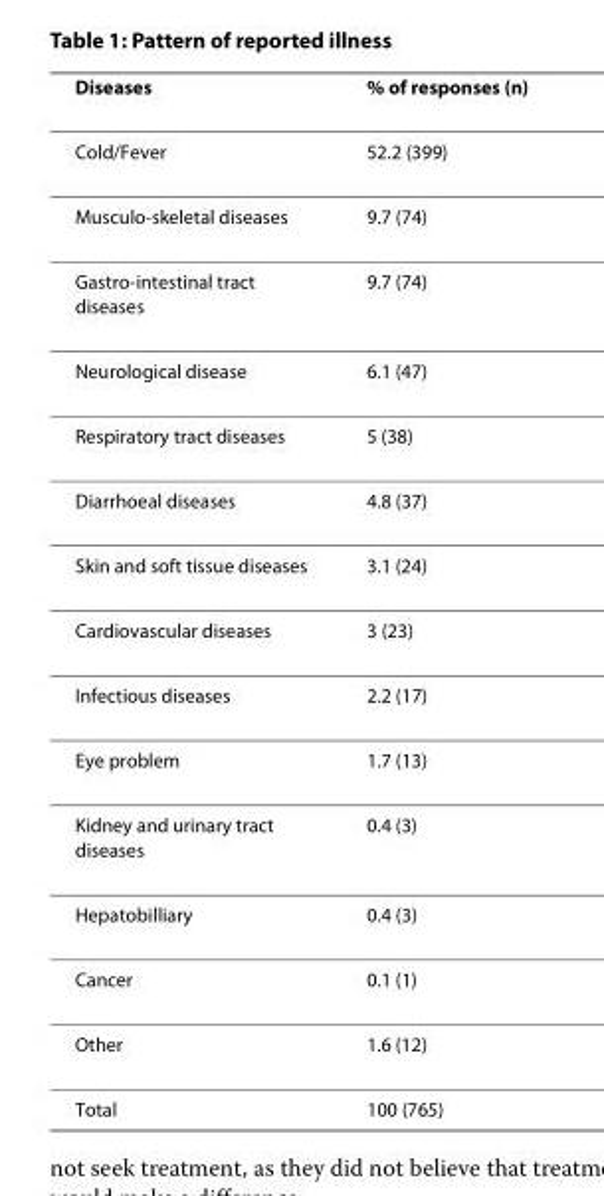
<table><thead><tr><td>Diseases</td><td>% of responses (n)</td></tr></thead><tbody><tr><td>Cold/Fever</td><td>52.2 (399)</td></tr><tr><td>Musculo-skeletal diseases</td><td>9.7 (74)</td></tr><tr><td>Gastro-intestinal tract diseases</td><td>9.7 (74)</td></tr><tr><td>Neurological disease</td><td>6.1 (47)</td></tr><tr><td>Respiratory tract diseases</td><td>5 (38)</td></tr><tr><td>Diarrhoeal diseases</td><td>4.8 (37)</td></tr><tr><td>Skin and soft tissue diseases</td><td>3.1 (24)</td></tr><tr><td>Cardiovascular diseases</td><td>3 (23)</td></tr><tr><td>Infectious diseases</td><td>2.2 (17)</td></tr><tr><td>Eye problem</td><td>1.7 (13)</td></tr><tr><td>Kidney and urinary tract diseases</td><td>0.4 (3)</td></tr><tr><td>Hepatobilliary</td><td>0.4 (3)</td></tr><tr><td>Cancer</td><td>0.1 (1)</td></tr><tr><td>Other</td><td>1.6 (12)</td></tr><tr><td>Total</td><td>100 (765)</td></tr></tbody></table>